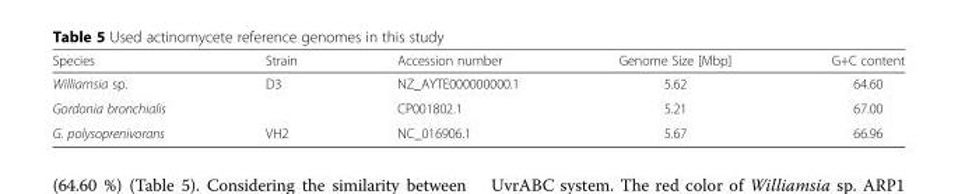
<table><thead><tr><td>Species</td><td>Strain</td><td>Accession number</td><td>Genome Size [Mbp]</td><td>G+C content</td></tr></thead><tbody><tr><td>Williamsia sp.</td><td>D3</td><td>NZ_AYTE000000000.1</td><td>5.62</td><td>64.60</td></tr><tr><td>Gordonia bronchialis</td><td></td><td>CP001802.1</td><td>5.21</td><td>67.00</td></tr><tr><td>G. polysoprenivorans</td><td>VH2</td><td>NC_016906.1</td><td>5.67</td><td>66.96</td></tr></tbody></table>